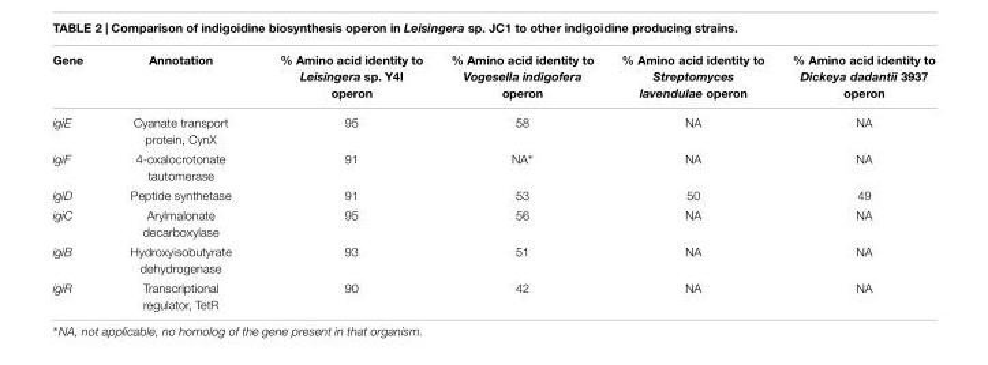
<table><thead><tr><td>Gene</td><td>Annotation</td><td>% Amino acid identity to Leisingera sp. Y4I operon</td><td>% Amino acid identity to Vogesella indigofera operon</td><td>% Amino acid identity to Streptomyces lavendulae operon</td><td>% Amino acid identity to Dickeya dadantii 3937 operon</td></tr></thead><tbody><tr><td>igiE</td><td>Cyanate transport protein, CynX</td><td>95</td><td>58</td><td>NA</td><td>NA</td></tr><tr><td>igiF</td><td>4-oxalocrotonate tautomerase</td><td>91</td><td>NA∗</td><td>NA</td><td>NA</td></tr><tr><td>igiD</td><td>Peptide synthetase</td><td>91</td><td>53</td><td>50</td><td>49</td></tr><tr><td>igiC</td><td>Arylmalonate decarboxylase</td><td>95</td><td>56</td><td>NA</td><td>NA</td></tr><tr><td>igiB</td><td>Hydroxyisobutyrate dehydrogenase</td><td>93</td><td>51</td><td>NA</td><td>NA</td></tr><tr><td>igiR</td><td>Transcriptional regulator, TetR</td><td>90</td><td>42</td><td>NA</td><td>NA</td></tr></tbody></table>